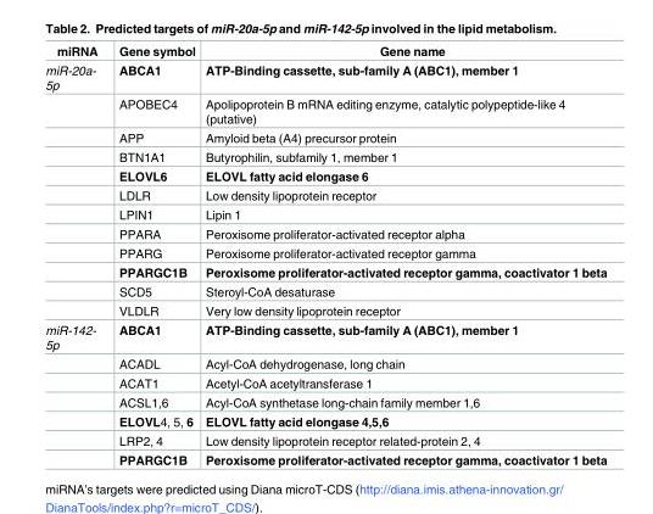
<table><thead><tr><td>miRNA</td><td>Gene symbol</td><td>Gene name</td></tr></thead><tbody><tr><td rowspan="12">miR-20a- 5p</td><td>ABCA1</td><td>ATP-Binding cassette, sub-family A (ABC1), member 1</td></tr><tr><td>APOBEC4</td><td>Apolipoprotein B mRNA editing enzyme, catalytic polypeptide-like 4 (putative)</td></tr><tr><td>APP</td><td>Amyloid beta (A4) precursor protein</td></tr><tr><td>BTN1A1</td><td>Butyrophilin, subfamily 1, member 1</td></tr><tr><td>ELOVL6</td><td>ELOVL fatty acid elongase 6</td></tr><tr><td>LDLR</td><td>Low density lipoprotein receptor</td></tr><tr><td>LPIN1</td><td>Lipin 1</td></tr><tr><td>PPARA</td><td>Peroxisome proliferator-activated receptor alpha</td></tr><tr><td>PPARG</td><td>Peroxisome proliferator-activated receptor gamma</td></tr><tr><td>PPARGC1B</td><td>Peroxisome proliferator-activated receptor gamma, coactivator 1 beta</td></tr><tr><td>SCD5</td><td>Steroyl-CoA desaturase</td></tr><tr><td>VLDLR</td><td>Very low density lipoprotein receptor</td></tr><tr><td rowspan="7">miR-142- 5p</td><td>ABCA1</td><td>ATP-Binding cassette, sub-family A (ABC1), member 1</td></tr><tr><td>ACADL</td><td>Acyl-CoA dehydrogenase, long chain</td></tr><tr><td>ACAT1</td><td>Acetyl-CoA acetyltransferase 1</td></tr><tr><td>ACSL1,6</td><td>Acyl-CoA synthetase long-chain family member 1,6</td></tr><tr><td>ELOVL4, 5, 6</td><td>ELOVL fatty acid elongase 4,5,6</td></tr><tr><td>LRP2, 4</td><td>Low density lipoprotein receptor related-protein 2, 4</td></tr><tr><td>PPARGC1B</td><td>Peroxisome proliferator-activated receptor gamma, coactivator 1 beta</td></tr></tbody></table>